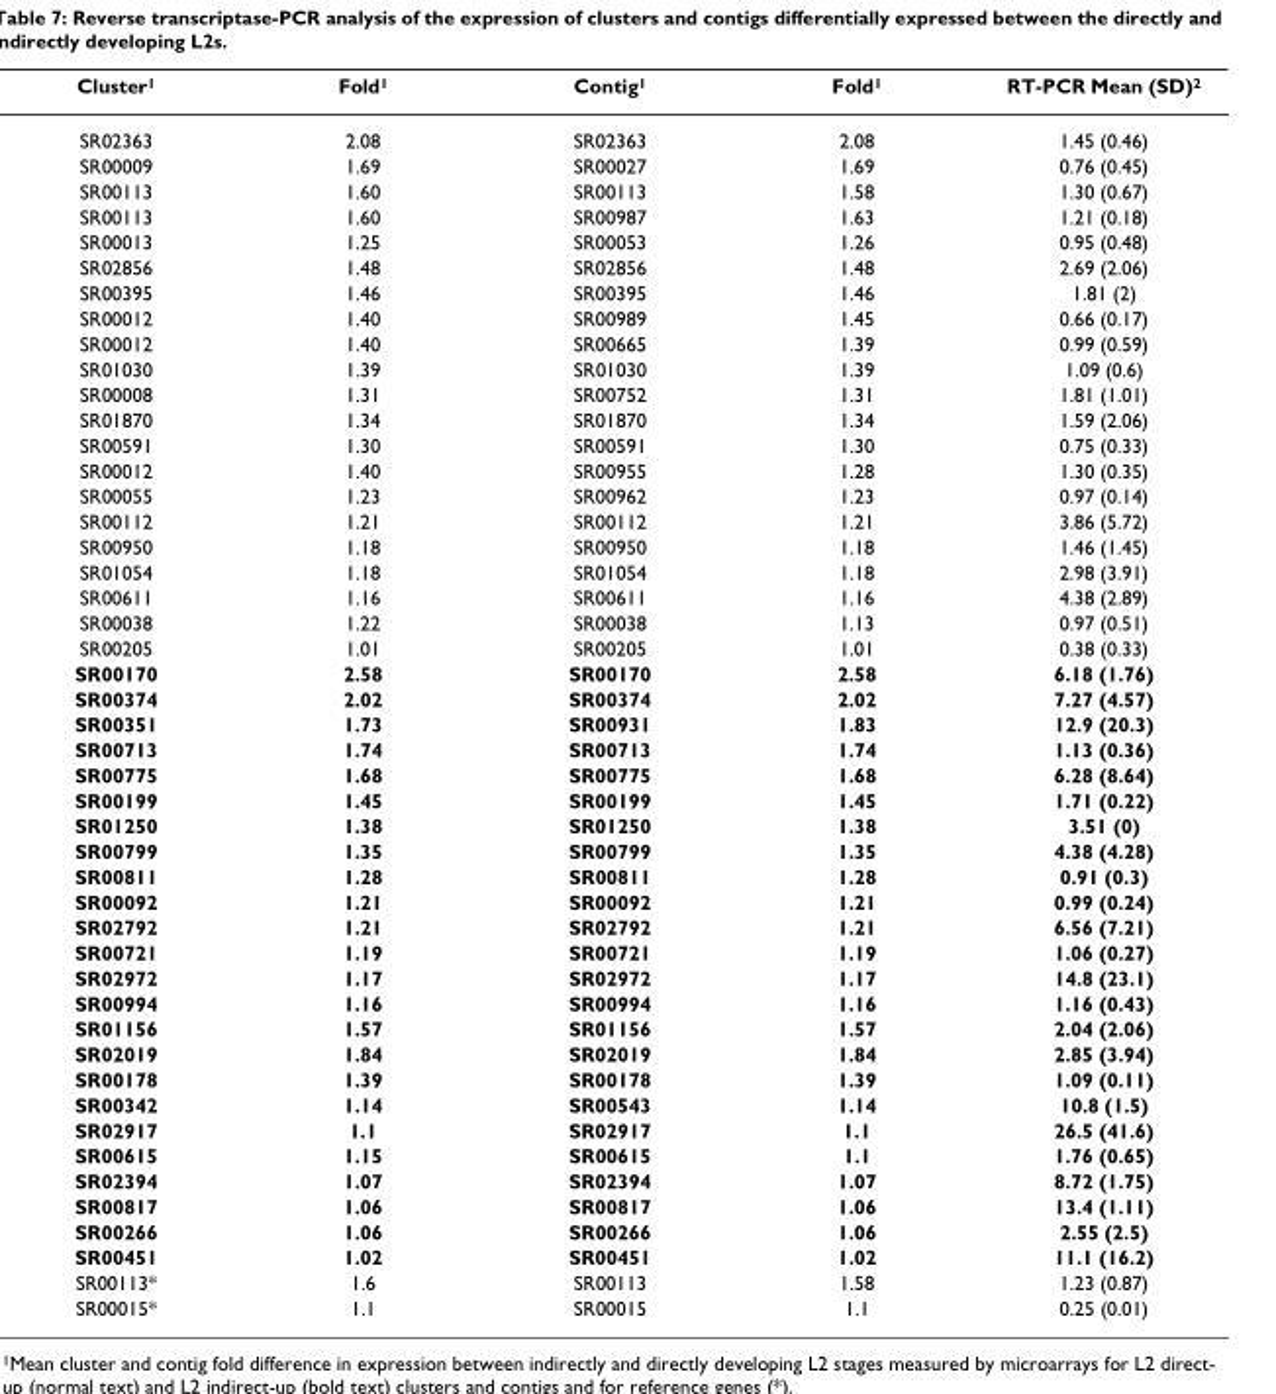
<table><thead><tr><td>Cluster1</td><td>Fold1</td><td>Contig1</td><td>Fold1</td><td>RT-PCR Mean (SD)2</td></tr></thead><tbody><tr><td>SR02363</td><td>2.08</td><td>SR02363</td><td>2.08</td><td>1.45 (0.46)</td></tr><tr><td>SR00009</td><td>1.69</td><td>SR00027</td><td>1.69</td><td>0.76 (0.45)</td></tr><tr><td>SR00113</td><td>1.60</td><td>SR00113</td><td>1.58</td><td>1.30 (0.67)</td></tr><tr><td>SR00113</td><td>1.60</td><td>SR00987</td><td>1.63</td><td>1.21 (0.18)</td></tr><tr><td>SR00013</td><td>1.25</td><td>SR00053</td><td>1.26</td><td>0.95 (0.48)</td></tr><tr><td>SR02856</td><td>1.48</td><td>SR02856</td><td>1.48</td><td>2.69 (2.06)</td></tr><tr><td>SR00395</td><td>1.46</td><td>SR00395</td><td>1.46</td><td>1.81 (2)</td></tr><tr><td>SR00012</td><td>1.40</td><td>SR00989</td><td>1.45</td><td>0.66 (0.17)</td></tr><tr><td>SR00012</td><td>1.40</td><td>SR00665</td><td>1.39</td><td>0.99 (0.59)</td></tr><tr><td>SR01030</td><td>1.39</td><td>SR01030</td><td>1.39</td><td>1.09 (0.6)</td></tr><tr><td>SR00008</td><td>1.31</td><td>SR00752</td><td>1.31</td><td>1.81 (1.01)</td></tr><tr><td>SR01870</td><td>1.34</td><td>SR01870</td><td>1.34</td><td>1.59 (2.06)</td></tr><tr><td>SR00591</td><td>1.30</td><td>SR00591</td><td>1.30</td><td>0.75 (0.33)</td></tr><tr><td>SR00012</td><td>1.40</td><td>SR00955</td><td>1.28</td><td>1.30 (0.35)</td></tr><tr><td>SR00055</td><td>1.23</td><td>SR00962</td><td>1.23</td><td>0.97 (0.14)</td></tr><tr><td>SR00112</td><td>1.21</td><td>SR00112</td><td>1.21</td><td>3.86 (5.72)</td></tr><tr><td>SR00950</td><td>1.18</td><td>SR00950</td><td>1.18</td><td>1.46 (1.45)</td></tr><tr><td>SR01054</td><td>1.18</td><td>SR01054</td><td>1.18</td><td>2.98 (3.91)</td></tr><tr><td>SR00611</td><td>1.16</td><td>SR00611</td><td>1.16</td><td>4.38 (2.89)</td></tr><tr><td>SR00038</td><td>1.22</td><td>SR00038</td><td>1.13</td><td>0.97 (0.51)</td></tr><tr><td>SR00205</td><td>1.01</td><td>SR00205</td><td>1.01</td><td>0.38 (0.33)</td></tr><tr><td>SR00170</td><td>2.58</td><td>SR00170</td><td>2.58</td><td>6.18 (1.76)</td></tr><tr><td>SR00374</td><td>2.02</td><td>SR00374</td><td>2.02</td><td>7.27 (4.57)</td></tr><tr><td>SR00351</td><td>1.73</td><td>SR00931</td><td>1.83</td><td>12.9 (20.3)</td></tr><tr><td>SR00713</td><td>1.74</td><td>SR00713</td><td>1.74</td><td>1.13 (0.36)</td></tr><tr><td>SR00775</td><td>1.68</td><td>SR00775</td><td>1.68</td><td>6.28 (8.64)</td></tr><tr><td>SR00199</td><td>1.45</td><td>SR00199</td><td>1.45</td><td>1.71 (0.22)</td></tr><tr><td>SR01250</td><td>1.38</td><td>SR01250</td><td>1.38</td><td>3.51 (0)</td></tr><tr><td>SR00799</td><td>1.35</td><td>SR00799</td><td>1.35</td><td>4.38 (4.28)</td></tr><tr><td>SR00811</td><td>1.28</td><td>SR00811</td><td>1.28</td><td>0.91 (0.3)</td></tr><tr><td>SR00092</td><td>1.21</td><td>SR00092</td><td>1.21</td><td>0.99 (0.24)</td></tr><tr><td>SR02792</td><td>1.21</td><td>SR02792</td><td>1.21</td><td>6.56 (7.21)</td></tr><tr><td>SR00721</td><td>1.19</td><td>SR00721</td><td>1.19</td><td>1.06 (0.27)</td></tr><tr><td>SR02972</td><td>1.17</td><td>SR02972</td><td>1.17</td><td>14.8 (23.1)</td></tr><tr><td>SR00994</td><td>1.16</td><td>SR00994</td><td>1.16</td><td>1.16 (0.43)</td></tr><tr><td>SR01156</td><td>1.57</td><td>SR01156</td><td>1.57</td><td>2.04 (2.06)</td></tr><tr><td>SR02019</td><td>1.84</td><td>SR02019</td><td>1.84</td><td>2.85 (3.94)</td></tr><tr><td>SR00178</td><td>1.39</td><td>SR00178</td><td>1.39</td><td>1.09 (0.11)</td></tr><tr><td>SR00342</td><td>1.14</td><td>SR00543</td><td>1.14</td><td>10.8 (1.5)</td></tr><tr><td>SR02917</td><td>1.1</td><td>SR02917</td><td>1.1</td><td>26.5 (41.6)</td></tr><tr><td>SR00615</td><td>1.15</td><td>SR00615</td><td>1.1</td><td>1.76 (0.65)</td></tr><tr><td>SR02394</td><td>1.07</td><td>SR02394</td><td>1.07</td><td>8.72 (1.75)</td></tr><tr><td>SR00817</td><td>1.06</td><td>SR00817</td><td>1.06</td><td>13.4 (1.11)</td></tr><tr><td>SR00266</td><td>1.06</td><td>SR00266</td><td>1.06</td><td>2.55 (2.5)</td></tr><tr><td>SR00451</td><td>1.02</td><td>SR00451</td><td>1.02</td><td>11.1 (16.2)</td></tr><tr><td>SR00113*</td><td>1.6</td><td>SR00113</td><td>1.58</td><td>1.23 (0.87)</td></tr><tr><td>SR00015*</td><td>1.1</td><td>SR00015</td><td>1.1</td><td>0.25 (0.01)</td></tr></tbody></table>